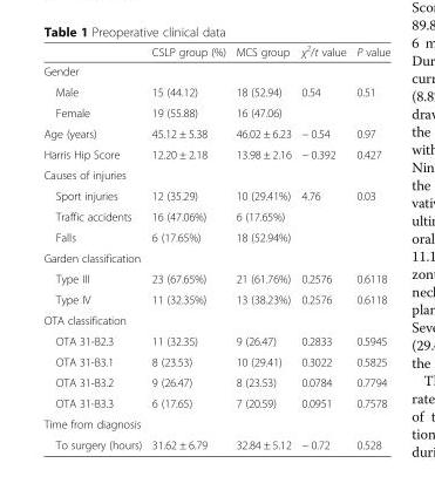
<table><thead><tr><td></td><td>CSLP group (%)</td><td>MCS group</td><td>χ<sup>2</sup>/t value</td><td>P value</td></tr></thead><tbody><tr><td colspan="5">Gender</td></tr><tr><td>Male</td><td>15 (44.12)</td><td>18 (52.94)</td><td>0.54</td><td>0.51</td></tr><tr><td>Female</td><td>19 (55.88)</td><td>16 (47.06)</td><td></td><td></td></tr><tr><td>Age (years)</td><td>45.12 ± 5.38</td><td>46.02 ± 6.23</td><td>− 0.54</td><td>0.97</td></tr><tr><td>Harris Hip Score</td><td>12.20 ± 2.18</td><td>13.98 ± 2.16</td><td>− 0.392</td><td>0.427</td></tr><tr><td colspan="5">Causes of injuries</td></tr><tr><td>Sport injuries</td><td>12 (35.29)</td><td>10 (29.41%)</td><td>4.76</td><td>0.03</td></tr><tr><td>Traffic accidents</td><td>16 (47.06%)</td><td>6 (17.65%)</td><td></td><td></td></tr><tr><td>Falls</td><td>6 (17.65%)</td><td>18 (52.94%)</td><td></td><td></td></tr><tr><td colspan="5">Garden classification</td></tr><tr><td>Type III</td><td>23 (67.65%)</td><td>21 (61.76%)</td><td>0.2576</td><td>0.6118</td></tr><tr><td>Type IV</td><td>11 (32.35%)</td><td>13 (38.23%)</td><td>0.2576</td><td>0.6118</td></tr><tr><td colspan="5">OTA classification</td></tr><tr><td>OTA 31-B2.3</td><td>11 (32.35)</td><td>9 (26.47)</td><td>0.2833</td><td>0.5945</td></tr><tr><td>OTA 31-B3.1</td><td>8 (23.53)</td><td>10 (29.41)</td><td>0.3022</td><td>0.5825</td></tr><tr><td>OTA 31-B3.2</td><td>9 (26.47)</td><td>8 (23.53)</td><td>0.0784</td><td>0.7794</td></tr><tr><td>OTA 31-B3.3</td><td>6 (17.65)</td><td>7 (20.59)</td><td>0.0951</td><td>0.7578</td></tr><tr><td colspan="5">Time from diagnosis</td></tr><tr><td>To surgery (hours)</td><td>31.62 ± 6.79</td><td>32.84 ± 5.12</td><td>− 0.72</td><td>0.528</td></tr></tbody></table>